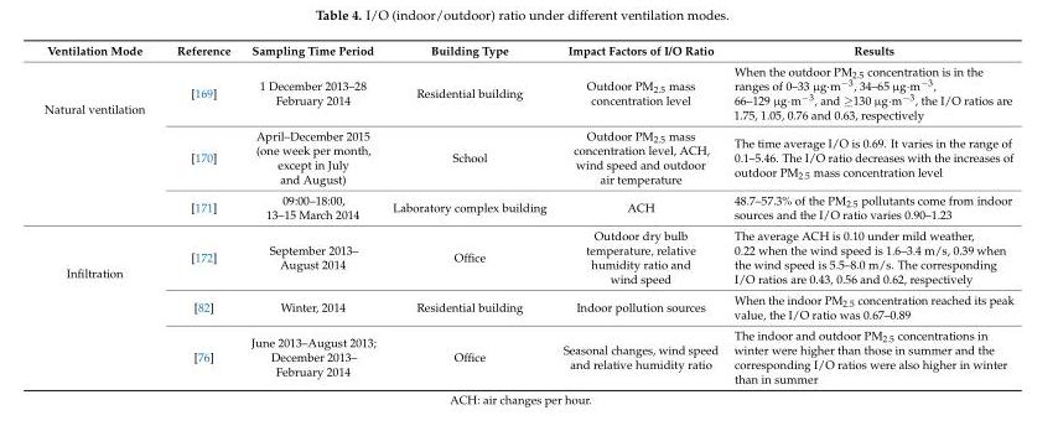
<table><thead><tr><td>Ventilation Mode</td><td>Reference</td><td>Sampling Time Period</td><td>Building Type</td><td>Impact Factors of I/O Ratio</td><td>Results</td></tr></thead><tbody><tr><td rowspan="3">Natural ventilation</td><td>[169]</td><td>1 December 2013–28 February 2014</td><td>Residential building</td><td>Outdoor PM<sub>2.5</sub> mass concentration level</td><td>When the outdoor PM<sub>2.5</sub> concentration is in the ranges of 0–33 µg·m<sup>−3</sup>, 34–65 µg·m<sup>−3</sup>, 66–129 µg·m<sup>−3</sup>, and ≥130 µg·m<sup>−3</sup>, the I/O ratios are 1.75, 1.05, 0.76 and 0.63, respectively</td></tr><tr><td>[170]</td><td>April–December 2015 (one week per month, except in July and August)</td><td>School</td><td>Outdoor PM<sub>2.5</sub> mass concentration level, ACH, wind speed and outdoor air temperature</td><td>The time average I/O is 0.69. It varies in the range of 0.1–5.46. The I/O ratio decreases with the increases of outdoor PM<sub>2.5</sub> mass concentration level</td></tr><tr><td>[171]</td><td>09:00–18:00, 13–15 March 2014</td><td>Laboratory complex building</td><td>ACH</td><td>48.7–57.3% of the PM<sub>2.5</sub> pollutants come from indoor sources and the I/O ratio varies 0.90–1.23</td></tr><tr><td rowspan="3">Infiltration</td><td>[172]</td><td>September 2013– August 2014</td><td>Office</td><td>Outdoor dry bulb temperature, relative humidity ratio and wind speed</td><td>The average ACH is 0.10 under mild weather, 0.22 when the wind speed is 1.6–3.4 m/s, 0.39 when the wind speed is 5.5–8.0 m/s. The corresponding I/O ratios are 0.43, 0.56 and 0.62, respectively</td></tr><tr><td>[82]</td><td>Winter, 2014</td><td>Residential building</td><td>Indoor pollution sources</td><td>When the indoor PM<sub>2.5</sub> concentration reached its peak value, the I/O ratio was 0.67–0.89</td></tr><tr><td>[76]</td><td>June 2013–August 2013; December 2013– February 2014</td><td>Office</td><td>Seasonal changes, wind speed and relative humidity ratio</td><td>The indoor and outdoor PM<sub>2.5</sub> concentrations in winter were higher than those in summer and the corresponding I/O ratios were also higher in winter than in summer</td></tr></tbody></table>